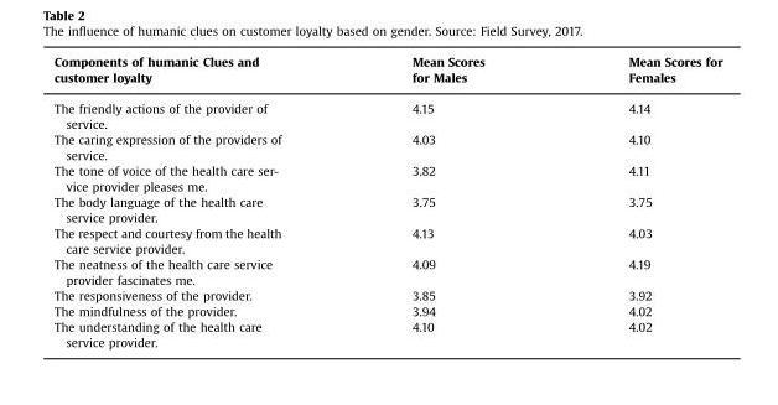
<table><thead><tr><td>Components of humanic Clues and customer loyalty</td><td>Mean Scores for Males</td><td>Mean Scores for Females</td></tr></thead><tbody><tr><td>The friendly actions of the provider of service.</td><td>4.15</td><td>4.14</td></tr><tr><td>The caring expression of the providers of service.</td><td>4.03</td><td>4.10</td></tr><tr><td>The tone of voice of the health care ser- vice provider pleases me.</td><td>3.82</td><td>4.11</td></tr><tr><td>The body language of the health care service provider.</td><td>3.75</td><td>3.75</td></tr><tr><td>The respect and courtesy from the health care service provider.</td><td>4.13</td><td>4.03</td></tr><tr><td>The neatness of the health care service provider fascinates me.</td><td>4.09</td><td>4.19</td></tr><tr><td>The responsiveness of the provider.</td><td>3.85</td><td>3.92</td></tr><tr><td>The mindfulness of the provider.</td><td>3.94</td><td>4.02</td></tr><tr><td>The understanding of the health care service provider.</td><td>4.10</td><td>4.02</td></tr></tbody></table>